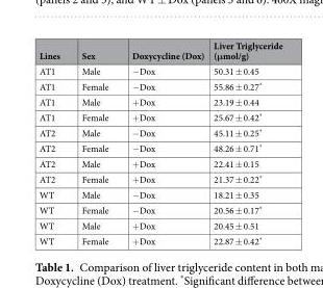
<table><thead><tr><td>Lines</td><td>Sex</td><td>Doxycycline (Dox)</td><td>Liver Triglyceride (μmol/g)</td></tr></thead><tbody><tr><td>AT1</td><td>Male</td><td>−Dox</td><td>50.31 ± 0.45</td></tr><tr><td>AT1</td><td>Female</td><td>−Dox</td><td>55.86 ± 0.27*</td></tr><tr><td>AT1</td><td>Male</td><td>+Dox</td><td>23.19 ± 0.44</td></tr><tr><td>AT1</td><td>Female</td><td>+Dox</td><td>25.67 ± 0.42*</td></tr><tr><td>AT2</td><td>Male</td><td>−Dox</td><td>45.11 ± 0.25*</td></tr><tr><td>AT2</td><td>Female</td><td>−Dox</td><td>48.26 ± 0.71*</td></tr><tr><td>AT2</td><td>Male</td><td>+Dox</td><td>22.41 ± 0.15</td></tr><tr><td>AT2</td><td>Female</td><td>+Dox</td><td>21.37 ± 0.22*</td></tr><tr><td>WT</td><td>Male</td><td>−Dox</td><td>18.21 ± 0.35</td></tr><tr><td>WT</td><td>Female</td><td>−Dox</td><td>20.56 ± 0.17*</td></tr><tr><td>WT</td><td>Male</td><td>+Dox</td><td>20.45 ± 0.51</td></tr><tr><td>WT</td><td>Female</td><td>+Dox</td><td>22.87 ± 0.42*</td></tr></tbody></table>